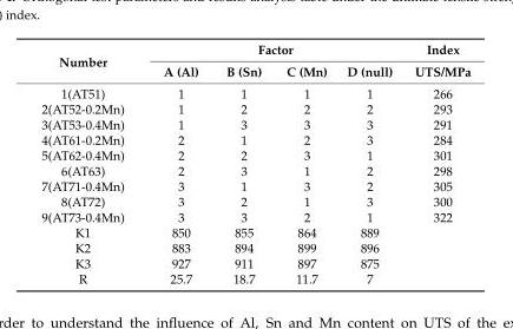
<table><thead><tr><td rowspan="2">Number</td><td colspan="4">Factor</td><td rowspan="2">Index UTS/MPa</td></tr><tr><td>A (Al)</td><td>B (Sn)</td><td>C (Mn)</td><td>D (null)</td></tr></thead><tbody><tr><td>1(AT51)</td><td>1</td><td>1</td><td>1</td><td>1</td><td>266</td></tr><tr><td>2(AT52-0.2Mn)</td><td>1</td><td>2</td><td>2</td><td>2</td><td>293</td></tr><tr><td>3(AT53-0.4Mn)</td><td>1</td><td>3</td><td>3</td><td>3</td><td>291</td></tr><tr><td>4(AT61-0.2Mn)</td><td>2</td><td>1</td><td>2</td><td>3</td><td>284</td></tr><tr><td>5(AT62-0.4Mn)</td><td>2</td><td>2</td><td>3</td><td>1</td><td>301</td></tr><tr><td>6(AT63)</td><td>2</td><td>3</td><td>1</td><td>2</td><td>298</td></tr><tr><td>7(AT71-0.4Mn)</td><td>3</td><td>1</td><td>3</td><td>2</td><td>305</td></tr><tr><td>8(AT72)</td><td>3</td><td>2</td><td>1</td><td>3</td><td>300</td></tr><tr><td>9(AT73-0.4Mn)</td><td>3</td><td>3</td><td>2</td><td>1</td><td>322</td></tr><tr><td>K1</td><td>850</td><td>855</td><td>864</td><td>889</td><td></td></tr><tr><td>K2</td><td>883</td><td>894</td><td>899</td><td>896</td><td></td></tr><tr><td>K3</td><td>927</td><td>911</td><td>897</td><td>875</td><td></td></tr><tr><td>R</td><td>25.7</td><td>18.7</td><td>11.7</td><td>7</td><td></td></tr></tbody></table>